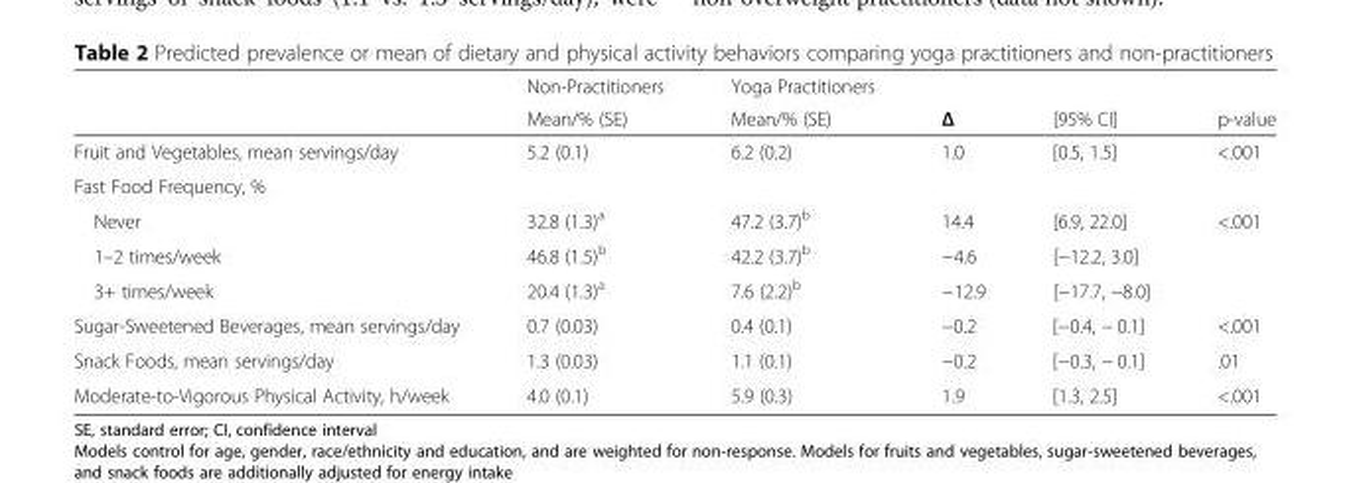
<table><thead><tr><td rowspan="2"></td><td rowspan="2">Non-Practitioners Mean/% (SE)</td><td rowspan="2">Yoga Practitioners Mean/% (SE)</td><td rowspan="2">Δ</td><td rowspan="2">[95% CI]</td><td rowspan="2">p-value</td></tr><tr></tr></thead><tbody><tr><td>Fruit and Vegetables, mean servings/day</td><td>5.2 (0.1)</td><td>6.2 (0.2)</td><td>1.0</td><td>[0.5, 1.5]</td><td>&lt;.001</td></tr><tr><td colspan="6">Fast Food Frequency, %</td></tr><tr><td>Never</td><td>32.8 (1.3)<sup>a</sup></td><td>47.2 (3.7)<sup>b</sup></td><td>14.4</td><td>[6.9, 22.0]</td><td>&lt;.001</td></tr><tr><td>1–2 times/week</td><td>46.8 (1.5)<sup>b</sup></td><td>42.2 (3.7)<sup>b</sup></td><td>−4.6</td><td>[−12.2, 3.0]</td><td></td></tr><tr><td>3+ times/week</td><td>20.4 (1.3)<sup>a</sup></td><td>7.6 (2.2)<sup>b</sup></td><td>−12.9</td><td>[−17.7, −8.0]</td><td></td></tr><tr><td>Sugar-Sweetened Beverages, mean servings/day</td><td>0.7 (0.03)</td><td>0.4 (0.1)</td><td>−0.2</td><td>[−0.4, − 0.1]</td><td>&lt;.001</td></tr><tr><td>Snack Foods, mean servings/day</td><td>1.3 (0.03)</td><td>1.1 (0.1)</td><td>−0.2</td><td>[−0.3, − 0.1]</td><td>.01</td></tr><tr><td>Moderate-to-Vigorous Physical Activity, h/week</td><td>4.0 (0.1)</td><td>5.9 (0.3)</td><td>1.9</td><td>[1.3, 2.5]</td><td>&lt;.001</td></tr></tbody></table>